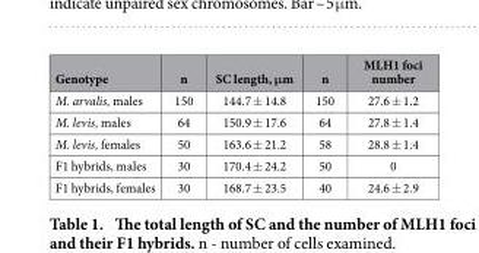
<table><thead><tr><td>Genotype</td><td>n</td><td>SC length, μm</td><td>n</td><td>MLH1 foci number</td></tr></thead><tbody><tr><td>M. arvalis, males</td><td>150</td><td>144.7 ± 14.8</td><td>150</td><td>27.6 ± 1.2</td></tr><tr><td>M. levis, males</td><td>64</td><td>150.9 ± 17.6</td><td>64</td><td>27.8 ± 1.4</td></tr><tr><td>M. levis, females</td><td>50</td><td>163.6 ± 21.2</td><td>58</td><td>28.8 ± 1.4</td></tr><tr><td>F1 hybrids, males</td><td>30</td><td>170.4 ± 24.2</td><td>50</td><td>0</td></tr><tr><td>F1 hybrids, females</td><td>30</td><td>168.7 ± 23.5</td><td>40</td><td>24.6 ± 2.9</td></tr></tbody></table>